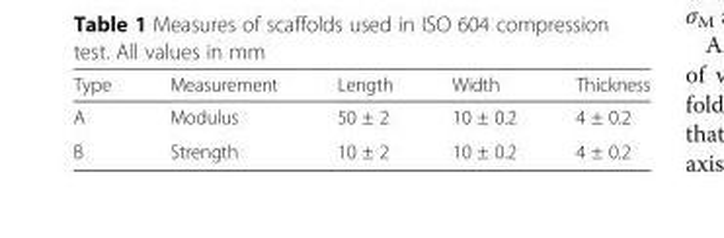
<table><thead><tr><td>Type</td><td>Measurement</td><td>Length</td><td>Width</td><td>Thickness</td></tr></thead><tbody><tr><td>A</td><td>Modulus</td><td>50 ± 2</td><td>10 ± 0.2</td><td>4 ± 0.2</td></tr><tr><td>B</td><td>Strength</td><td>10 ± 2</td><td>10 ± 0.2</td><td>4 ± 0.2</td></tr></tbody></table>